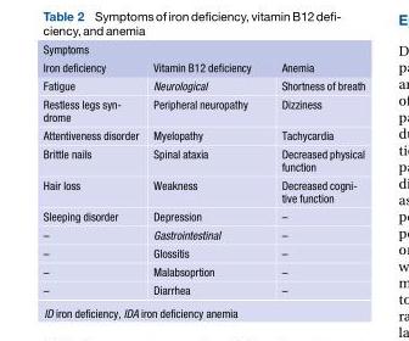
<table><thead><tr><td colspan="3">Symptoms</td></tr><tr><td>Iron deficiency</td><td>Vitamin B12 deficiency</td><td>Anemia</td></tr></thead><tbody><tr><td>Fatigue</td><td>Neurological</td><td>Shortness of breath</td></tr><tr><td>Restless legs syn- drome</td><td>Peripheral neuropathy</td><td>Dizziness</td></tr><tr><td>Attentiveness disorder</td><td>Myelopathy</td><td>Tachycardia</td></tr><tr><td>Brittle nails</td><td>Spinal ataxia</td><td>Decreased physical function</td></tr><tr><td>Hair loss</td><td>Weakness</td><td>Decreased cogni- tive function</td></tr><tr><td>Sleeping disorder</td><td>Depression</td><td>–</td></tr><tr><td>–</td><td>Gastrointestinal</td><td>–</td></tr><tr><td>–</td><td>Glossitis</td><td>–</td></tr><tr><td>–</td><td>Malabsoprtion</td><td>–</td></tr><tr><td>–</td><td>Diarrhea</td><td>–</td></tr></tbody></table>